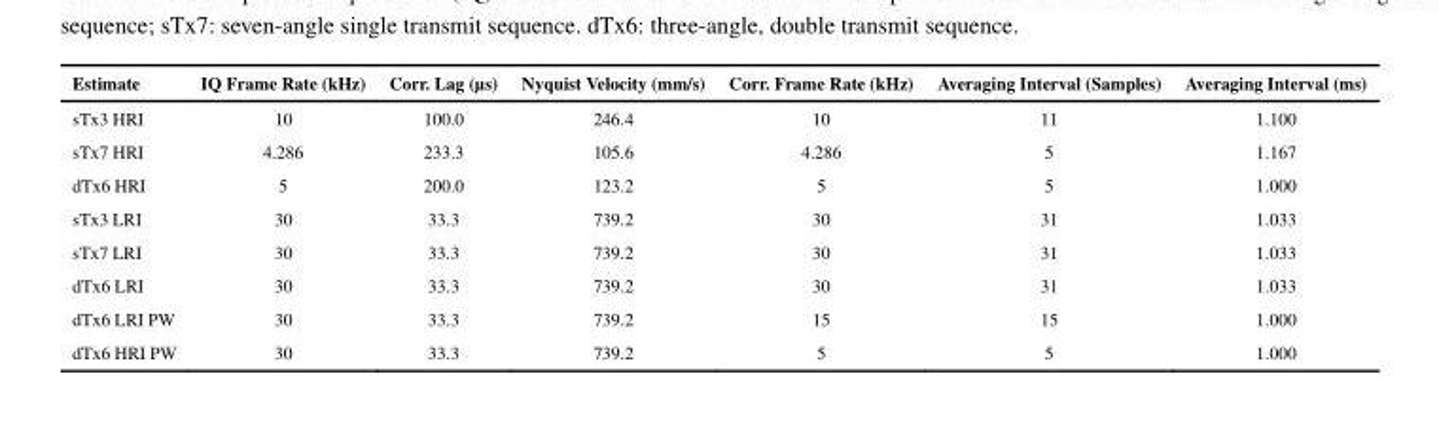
<table><thead><tr><td>Estimate</td><td>IQ Frame Rate (kHz)</td><td>Corr. Lag (μs)</td><td>Nyquist Velocity (mm/s)</td><td>Corr. Frame Rate (kHz)</td><td>Averaging Interval (Samples)</td><td>Averaging Interval (ms)</td></tr></thead><tbody><tr><td>sTx3 HRI</td><td>10</td><td>100.0</td><td>246.4</td><td>10</td><td>11</td><td>1.100</td></tr><tr><td>sTx7 HRI</td><td>4.286</td><td>233.3</td><td>105.6</td><td>4.286</td><td>5</td><td>1.167</td></tr><tr><td>dTx6 HRI</td><td>5</td><td>200.0</td><td>123.2</td><td>5</td><td>5</td><td>1.000</td></tr><tr><td>sTx3 LRI</td><td>30</td><td>33.3</td><td>739.2</td><td>30</td><td>31</td><td>1.033</td></tr><tr><td>sTx7 LRI</td><td>30</td><td>33.3</td><td>739.2</td><td>30</td><td>31</td><td>1.033</td></tr><tr><td>dTx6 LRI</td><td>30</td><td>33.3</td><td>739.2</td><td>30</td><td>31</td><td>1.033</td></tr><tr><td>dTx6 LRI PW</td><td>30</td><td>33.3</td><td>739.2</td><td>15</td><td>15</td><td>1.000</td></tr><tr><td>dTx6 HRI PW</td><td>30</td><td>33.3</td><td>739.2</td><td>5</td><td>5</td><td>1.000</td></tr></tbody></table>